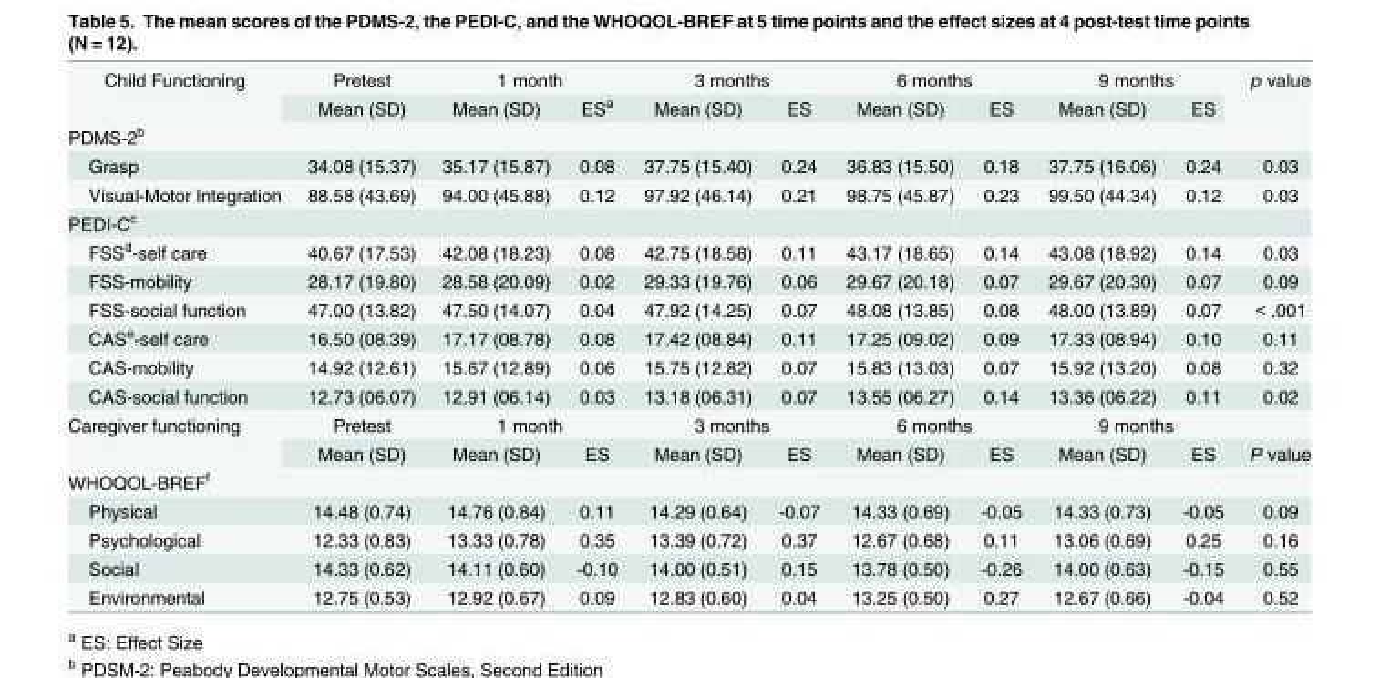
<table><tbody><tr><td rowspan="2">Child Functioning</td><td>Pretest</td><td colspan="2">1 month</td><td colspan="2">3 months</td><td colspan="2">6 months</td><td colspan="2">9 months</td><td rowspan="2">p value</td></tr><tr><td>Mean (SD)</td><td>Mean (SD)</td><td>ES<sup>a</sup></td><td>Mean (SD)</td><td>ES</td><td>Mean (SD)</td><td>ES</td><td>Mean (SD)</td><td>ES</td></tr><tr><td colspan="11">PDMS-2<sup>b</sup></td></tr><tr><td>Grasp</td><td>34.08 (15.37)</td><td>35.17 (15.87)</td><td>0.08</td><td>37.75 (15.40)</td><td>0.24</td><td>36.83 (15.50)</td><td>0.18</td><td>37.75 (16.06)</td><td>0.24</td><td>0.03</td></tr><tr><td>Visual-Motor Integration</td><td>88.58 (43.69)</td><td>94.00 (45.88)</td><td>0.12</td><td>97.92 (46.14)</td><td>0.21</td><td>98.75 (45.87)</td><td>0.23</td><td>99.50 (44.34)</td><td>0.12</td><td>0.03</td></tr><tr><td colspan="11">PEDI-C<sup>c</sup></td></tr><tr><td>FSS<sup>d</sup>-self care</td><td>40.67 (17.53)</td><td>42.08 (18.23)</td><td>0.08</td><td>42.75 (18.58)</td><td>0.11</td><td>43.17 (18.65)</td><td>0.14</td><td>43.08 (18.92)</td><td>0.14</td><td>0.03</td></tr><tr><td>FSS-mobility</td><td>28.17 (19.80)</td><td>28.58 (20.09)</td><td>0.02</td><td>29.33 (19.76)</td><td>0.06</td><td>29.67 (20.18)</td><td>0.07</td><td>29.67 (20.30)</td><td>0.07</td><td>0.09</td></tr><tr><td>FSS-social function</td><td>47.00 (13.82)</td><td>47.50 (14.07)</td><td>0.04</td><td>47.92 (14.25)</td><td>0.07</td><td>48.08 (13.85)</td><td>0.08</td><td>48.00 (13.89)</td><td>0.07</td><td>&lt; .001</td></tr><tr><td>CAS<sup>e</sup>-self care</td><td>16.50 (08.39)</td><td>17.17 (08.78)</td><td>0.08</td><td>17.42 (08.84)</td><td>0.11</td><td>17.25 (09.02)</td><td>0.09</td><td>17.33 (08.94)</td><td>0.10</td><td>0.11</td></tr><tr><td>CAS-mobility</td><td>14.92 (12.61)</td><td>15.67 (12.89)</td><td>0.06</td><td>15.75 (12.82)</td><td>0.07</td><td>15.83 (13.03)</td><td>0.07</td><td>15.92 (13.20)</td><td>0.08</td><td>0.32</td></tr><tr><td>CAS-social function</td><td>12.73 (06.07)</td><td>12.91 (06.14)</td><td>0.03</td><td>13.18 (06.31)</td><td>0.07</td><td>13.55 (06.27)</td><td>0.14</td><td>13.36 (06.22)</td><td>0.11</td><td>0.02</td></tr><tr><td rowspan="2">Caregiver functioning</td><td>Pretest</td><td colspan="2">1 month</td><td colspan="2">3 months</td><td colspan="2">6 months</td><td colspan="2">9 months</td><td></td></tr><tr><td>Mean (SD)</td><td>Mean (SD)</td><td>ES</td><td>Mean (SD)</td><td>ES</td><td>Mean (SD)</td><td>ES</td><td>Mean (SD)</td><td>ES</td><td>P value</td></tr><tr><td colspan="11">WHOQOL-BREF<sup>f</sup></td></tr><tr><td>Physical</td><td>14.48 (0.74)</td><td>14.76 (0.84)</td><td>0.11</td><td>14.29 (0.64)</td><td>-0.07</td><td>14.33 (0.69)</td><td>-0.05</td><td>14.33 (0.73)</td><td>-0.05</td><td>0.09</td></tr><tr><td>Psychological</td><td>12.33 (0.83)</td><td>13.33 (0.78)</td><td>0.35</td><td>13.39 (0.72)</td><td>0.37</td><td>12.67 (0.68)</td><td>0.11</td><td>13.06 (0.69)</td><td>0.25</td><td>0.16</td></tr><tr><td>Social</td><td>14.33 (0.62)</td><td>14.11 (0.60)</td><td>-0.10</td><td>14.00 (0.51)</td><td>0.15</td><td>13.78 (0.50)</td><td>-0.26</td><td>14.00 (0.63)</td><td>-0.15</td><td>0.55</td></tr><tr><td>Environmental</td><td>12.75 (0.53)</td><td>12.92 (0.67)</td><td>0.09</td><td>12.83 (0.60)</td><td>0.04</td><td>13.25 (0.50)</td><td>0.27</td><td>12.67 (0.66)</td><td>-0.04</td><td>0.52</td></tr></tbody></table>